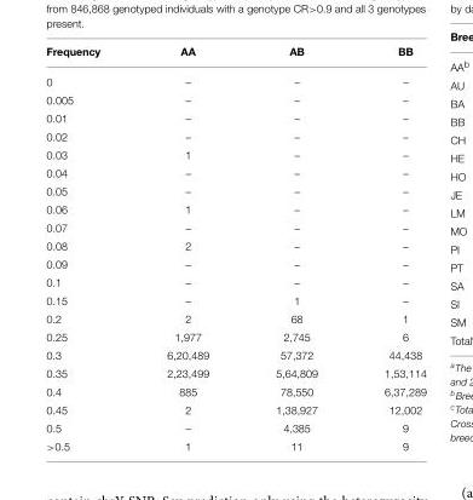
<table><thead><tr><td>Frequency</td><td>AA</td><td>AB</td><td>BB</td></tr></thead><tbody><tr><td>0</td><td>–</td><td>–</td><td>–</td></tr><tr><td>0.005</td><td>–</td><td>–</td><td>–</td></tr><tr><td>0.01</td><td>–</td><td>–</td><td>–</td></tr><tr><td>0.02</td><td>–</td><td>–</td><td>–</td></tr><tr><td>0.03</td><td>1</td><td>–</td><td>–</td></tr><tr><td>0.04</td><td>–</td><td>–</td><td>–</td></tr><tr><td>0.05</td><td>–</td><td>–</td><td>–</td></tr><tr><td>0.06</td><td>1</td><td>–</td><td>–</td></tr><tr><td>0.07</td><td>–</td><td>–</td><td>–</td></tr><tr><td>0.08</td><td>2</td><td>–</td><td>–</td></tr><tr><td>0.09</td><td>–</td><td>–</td><td>–</td></tr><tr><td>0.1</td><td>–</td><td>–</td><td>–</td></tr><tr><td>0.15</td><td>–</td><td>1</td><td>–</td></tr><tr><td>0.2</td><td>2</td><td>68</td><td>1</td></tr><tr><td>0.25</td><td>1,977</td><td>2,745</td><td>6</td></tr><tr><td>0.3</td><td>6,20,489</td><td>57,372</td><td>44,438</td></tr><tr><td>0.35</td><td>2,23,499</td><td>5,64,809</td><td>1,53,114</td></tr><tr><td>0.4</td><td>885</td><td>78,550</td><td>6,37,289</td></tr><tr><td>0.45</td><td>2</td><td>1,38,927</td><td>12,002</td></tr><tr><td>0.5</td><td>–</td><td>4,385</td><td>9</td></tr><tr><td>&gt;0.5</td><td>1</td><td>11</td><td>9</td></tr></tbody></table>